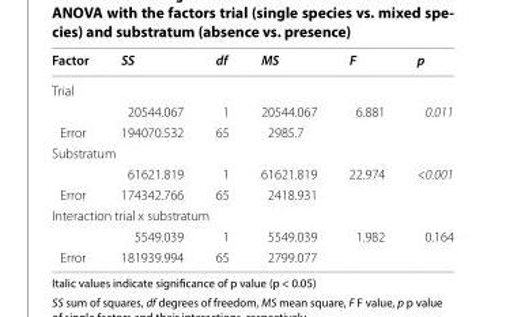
<table><thead><tr><td>Factor</td><td>SS</td><td>df</td><td>MS</td><td>F</td><td>p</td></tr></thead><tbody><tr><td colspan="6">Trial</td></tr><tr><td></td><td>20544.067</td><td>1</td><td>20544.067</td><td>6.881</td><td>0.011</td></tr><tr><td>Error</td><td>194070.532</td><td>65</td><td>2985.7</td><td></td><td></td></tr><tr><td colspan="6">Substratum</td></tr><tr><td></td><td>61621.819</td><td>1</td><td>61621.819</td><td>22.974</td><td>&lt;0.001</td></tr><tr><td>Error</td><td>174342.766</td><td>65</td><td>2418.931</td><td></td><td></td></tr><tr><td colspan="6">Interaction trial x substratum</td></tr><tr><td></td><td>5549.039</td><td>1</td><td>5549.039</td><td>1.982</td><td>0.164</td></tr><tr><td>Error</td><td>181939.994</td><td>65</td><td>2799.077</td><td></td><td></td></tr></tbody></table>